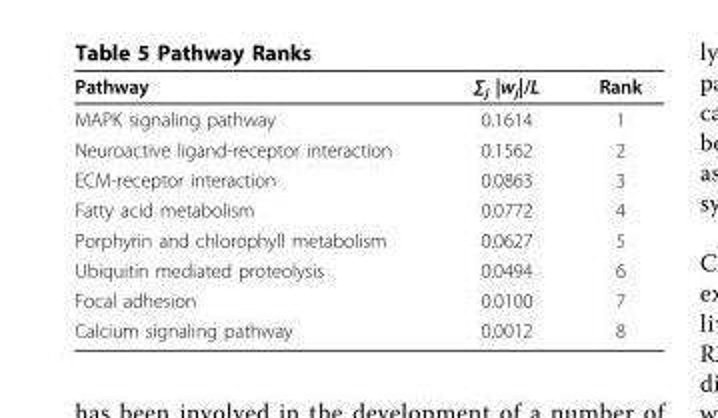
<table><thead><tr><td>Pathway</td><td>∑<sub>j</sub> |w<sub>j</sub>|/L</td><td>Rank</td></tr></thead><tbody><tr><td>MAPK signaling pathway</td><td>0.1614</td><td>1</td></tr><tr><td>Neuroactive ligand-receptor interaction</td><td>0.1562</td><td>2</td></tr><tr><td>ECM-receptor interaction</td><td>0.0863</td><td>3</td></tr><tr><td>Fatty acid metabolism</td><td>0.0772</td><td>4</td></tr><tr><td>Porphyrin and chlorophyll metabolism</td><td>0.0627</td><td>5</td></tr><tr><td>Ubiquitin mediated proteolysis</td><td>0.0494</td><td>6</td></tr><tr><td>Focal adhesion</td><td>0.0100</td><td>7</td></tr><tr><td>Calcium signaling pathway</td><td>0.0012</td><td>8</td></tr></tbody></table>